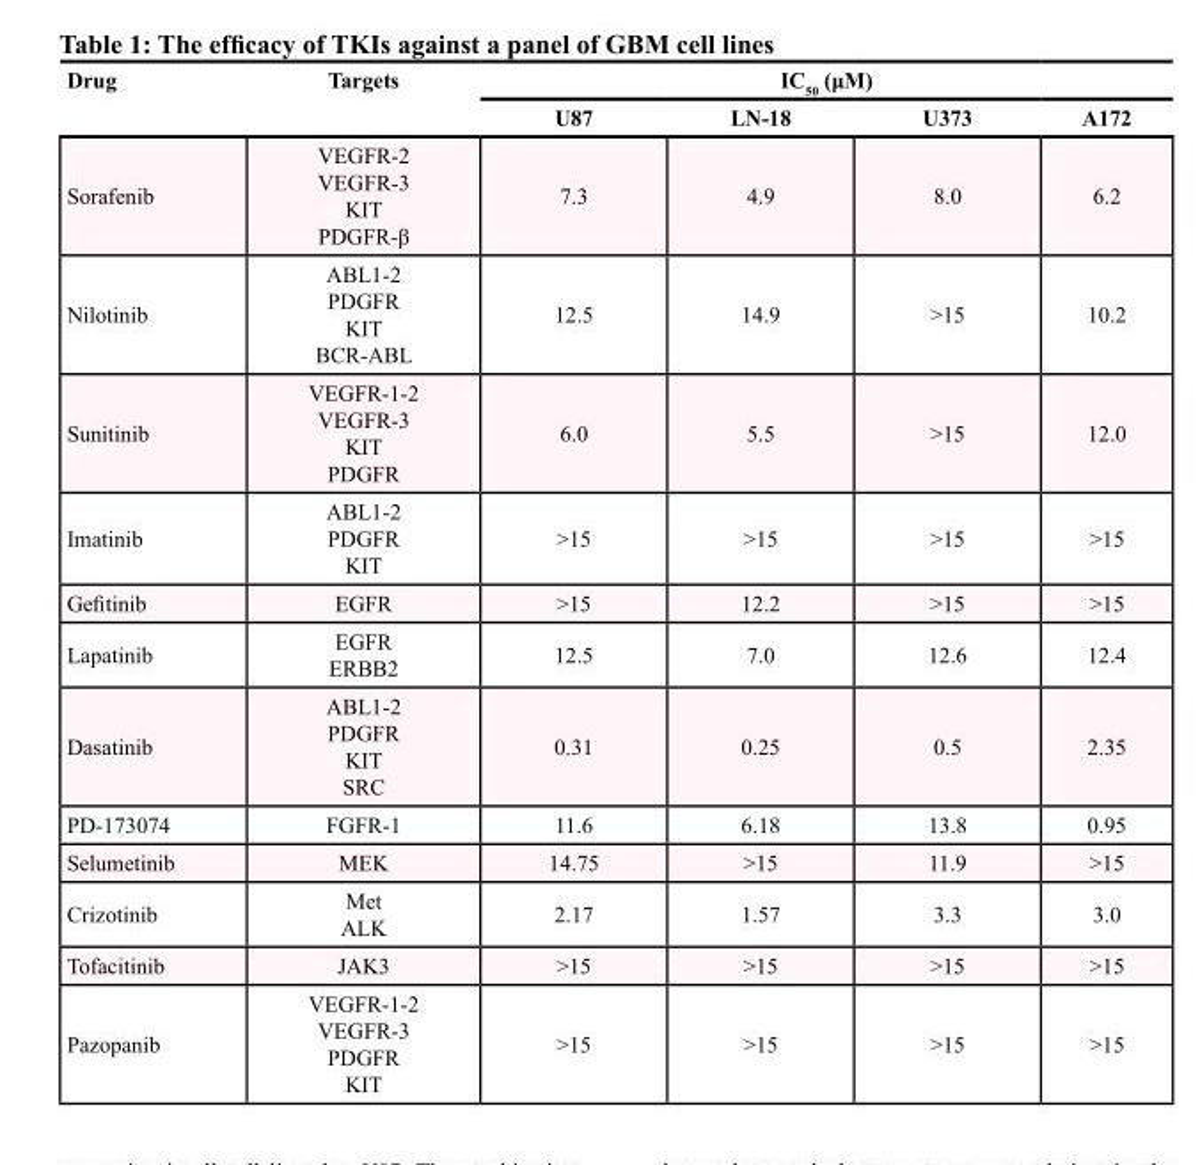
<table><thead><tr><td rowspan="2">Drug</td><td rowspan="2">Targets</td><td colspan="4">IC<sub>50</sub> (μM)</td></tr><tr><td>U87</td><td>LN-18</td><td>U373</td><td>A172</td></tr></thead><tbody><tr><td>Sorafenib</td><td>VEGFR-2 VEGFR-3 KIT PDGFR-β</td><td>7.3</td><td>4.9</td><td>8.0</td><td>6.2</td></tr><tr><td>Nilotinib</td><td>ABL1-2 PDGFR KIT BCR-ABL</td><td>12.5</td><td>14.9</td><td>&gt;15</td><td>10.2</td></tr><tr><td>Sunitinib</td><td>VEGFR-1-2 VEGFR-3 KIT PDGFR</td><td>6.0</td><td>5.5</td><td>&gt;15</td><td>12.0</td></tr><tr><td>Imatinib</td><td>ABL1-2 PDGFR KIT</td><td>&gt;15</td><td>&gt;15</td><td>&gt;15</td><td>&gt;15</td></tr><tr><td>Gefitinib</td><td>EGFR</td><td>&gt;15</td><td>12.2</td><td>&gt;15</td><td>&gt;15</td></tr><tr><td>Lapatinib</td><td>EGFR ERBB2</td><td>12.5</td><td>7.0</td><td>12.6</td><td>12.4</td></tr><tr><td>Dasatinib</td><td>ABL1-2 PDGFR KIT SRC</td><td>0.31</td><td>0.25</td><td>0.5</td><td>2.35</td></tr><tr><td>PD-173074</td><td>FGFR-1</td><td>11.6</td><td>6.18</td><td>13.8</td><td>0.95</td></tr><tr><td>Selumetinib</td><td>MEK</td><td>14.75</td><td>&gt;15</td><td>11.9</td><td>&gt;15</td></tr><tr><td>Crizotinib</td><td>Met ALK</td><td>2.17</td><td>1.57</td><td>3.3</td><td>3.0</td></tr><tr><td>Tofacitinib</td><td>JAK3</td><td>&gt;15</td><td>&gt;15</td><td>&gt;15</td><td>&gt;15</td></tr><tr><td>Pazopanib</td><td>VEGFR-1-2 VEGFR-3 PDGFR KIT</td><td>&gt;15</td><td>&gt;15</td><td>&gt;15</td><td>&gt;15</td></tr></tbody></table>